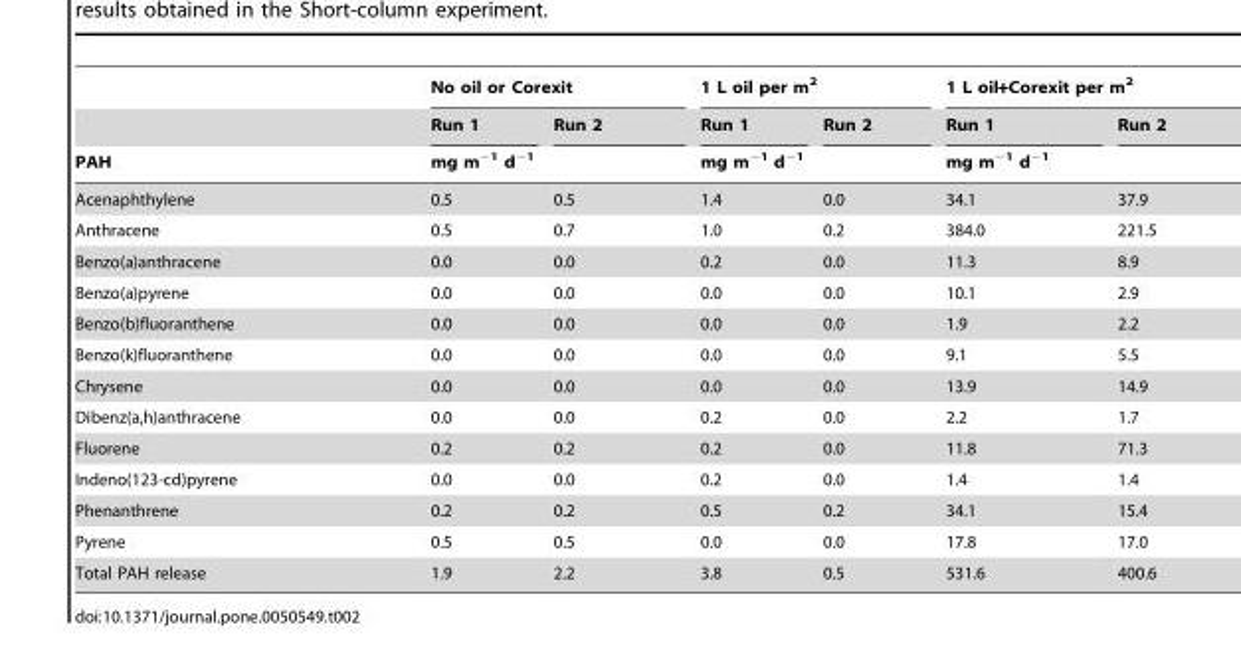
<table><thead><tr><td rowspan="3">PAH</td><td colspan="2">No oil or Corexit</td><td colspan="2">1 L oil per m<sup>2</sup></td><td colspan="2">1 L oil+Corexit per m<sup>2</sup></td></tr><tr><td>Run 1</td><td>Run 2</td><td>Run 1</td><td>Run 2</td><td>Run 1</td><td>Run 2</td></tr><tr><td colspan="2">mg m<sup>−1</sup> d<sup>−1</sup></td><td colspan="2">mg m<sup>−1</sup> d<sup>−1</sup></td><td colspan="2">mg m<sup>−1</sup> d<sup>−1</sup></td></tr></thead><tbody><tr><td>Acenaphthylene</td><td>0.5</td><td>0.5</td><td>1.4</td><td>0.0</td><td>34.1</td><td>37.9</td></tr><tr><td>Anthracene</td><td>0.5</td><td>0.7</td><td>1.0</td><td>0.2</td><td>384.0</td><td>221.5</td></tr><tr><td>Benzo(a)anthracene</td><td>0.0</td><td>0.0</td><td>0.2</td><td>0.0</td><td>11.3</td><td>8.9</td></tr><tr><td>Benzo(a)pyrene</td><td>0.0</td><td>0.0</td><td>0.0</td><td>0.0</td><td>10.1</td><td>2.9</td></tr><tr><td>Benzo(b)fluoranthene</td><td>0.0</td><td>0.0</td><td>0.0</td><td>0.0</td><td>1.9</td><td>2.2</td></tr><tr><td>Benzo(k)fluoranthene</td><td>0.0</td><td>0.0</td><td>0.0</td><td>0.0</td><td>9.1</td><td>5.5</td></tr><tr><td>Chrysene</td><td>0.0</td><td>0.0</td><td>0.0</td><td>0.0</td><td>13.9</td><td>14.9</td></tr><tr><td>Dibenz(a,h)anthracene</td><td>0.0</td><td>0.0</td><td>0.2</td><td>0.0</td><td>2.2</td><td>1.7</td></tr><tr><td>Fluorene</td><td>0.2</td><td>0.2</td><td>0.2</td><td>0.0</td><td>11.8</td><td>71.3</td></tr><tr><td>Indeno(123-cd)pyrene</td><td>0.0</td><td>0.0</td><td>0.2</td><td>0.0</td><td>1.4</td><td>1.4</td></tr><tr><td>Phenanthrene</td><td>0.2</td><td>0.2</td><td>0.5</td><td>0.2</td><td>34.1</td><td>15.4</td></tr><tr><td>Pyrene</td><td>0.5</td><td>0.5</td><td>0.0</td><td>0.0</td><td>17.8</td><td>17.0</td></tr><tr><td>Total PAH release</td><td>1.9</td><td>2.2</td><td>3.8</td><td>0.5</td><td>531.6</td><td>400.6</td></tr></tbody></table>